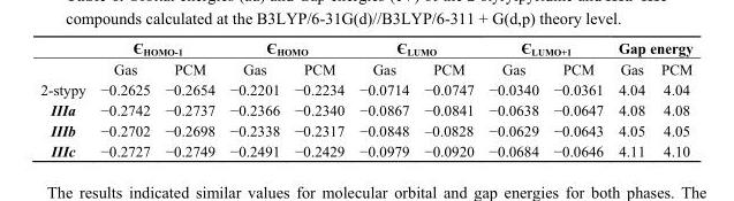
<table><thead><tr><td rowspan="2"></td><td colspan="2">Є<sub>HOMO-1</sub></td><td colspan="2">Є<sub>HOMO</sub></td><td colspan="2">Є<sub>LUMO</sub></td><td colspan="2">Є<sub>LUMO+1</sub></td><td colspan="2">Gap energy</td></tr><tr><td>Gas</td><td>PCM</td><td>Gas</td><td>PCM</td><td>Gas</td><td>PCM</td><td>Gas</td><td>PCM</td><td>Gas</td><td>PCM</td></tr></thead><tbody><tr><td>2-stypy</td><td>−0.2625</td><td>−0.2654</td><td>−0.2201</td><td>−0.2234</td><td>−0.0714</td><td>−0.0747</td><td>−0.0340</td><td>−0.0361</td><td>4.04</td><td>4.04</td></tr><tr><td>IIIa</td><td>−0.2742</td><td>−0.2737</td><td>−0.2366</td><td>−0.2340</td><td>−0.0867</td><td>−0.0841</td><td>−0.0638</td><td>−0.0647</td><td>4.08</td><td>4.08</td></tr><tr><td>IIIb</td><td>−0.2702</td><td>−0.2698</td><td>−0.2338</td><td>−0.2317</td><td>−0.0848</td><td>–0.0828</td><td>−0.0629</td><td>−0.0643</td><td>4.05</td><td>4.05</td></tr><tr><td>IIIc</td><td>−0.2727</td><td>−0.2749</td><td>−0.2491</td><td>−0.2429</td><td>−0.0979</td><td>−0.0920</td><td>−0.0684</td><td>−0.0646</td><td>4.11</td><td>4.10</td></tr></tbody></table>